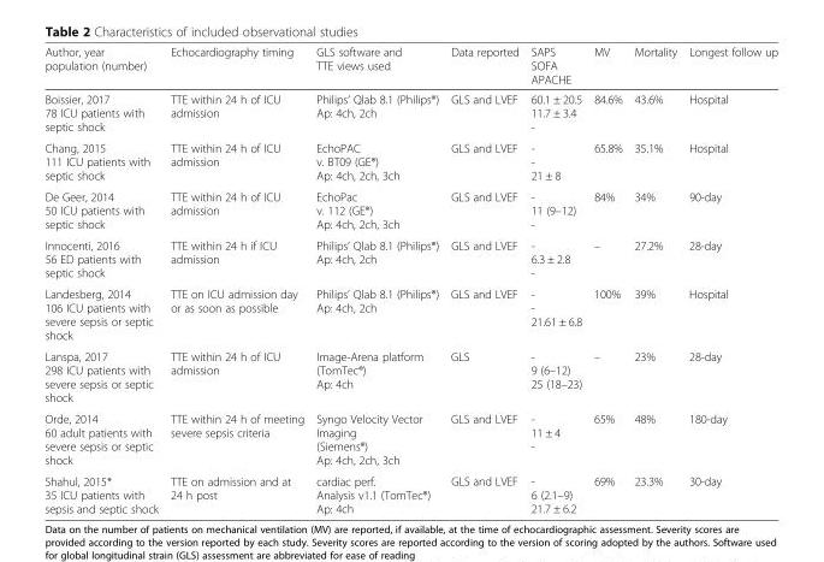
<table><thead><tr><td>Author, year population (number)</td><td>Echocardiography timing</td><td>GLS software and TTE views used</td><td>Data reported</td><td>SAPS SOFA APACHE</td><td>MV</td><td>Mortality</td><td>Longest follow up</td></tr></thead><tbody><tr><td>Boissier, 2017 78 ICU patients with septic shock</td><td>TTE within 24 h of ICU admission</td><td>Philips’ Qlab 8.1 (Philips®) Ap: 4ch, 2ch</td><td>GLS and LVEF</td><td>60.1 ± 20.5 11.7 ± 3.4 -</td><td>84.6%</td><td>43.6%</td><td>Hospital</td></tr><tr><td>Chang, 2015 111 ICU patients with septic shock</td><td>TTE within 24 h of ICU admission</td><td>EchoPAC v. BT09 (GE®) Ap: 4ch, 2ch, 3ch</td><td>GLS and LVEF</td><td>- - 21 ± 8</td><td>65.8%</td><td>35.1%</td><td>Hospital</td></tr><tr><td>De Geer, 2014 50 ICU patients with septic shock</td><td>TTE within 24 h of ICU admission</td><td>EchoPac v. 112 (GE®) Ap: 4ch, 2ch, 3ch</td><td>GLS and LVEF</td><td>- 11 (9–12) -</td><td>84%</td><td>34%</td><td>90-day</td></tr><tr><td>Innocenti, 2016 56 ED patients with septic shock</td><td>TTE within 24 h if ICU admission</td><td>Philips’ Qlab 8.1 (Philips®) Ap: 4ch, 2ch</td><td>GLS and LVEF</td><td>- 6.3 ± 2.8 -</td><td>–</td><td>27.2%</td><td>28-day</td></tr><tr><td>Landesberg, 2014 106 ICU patients with severe sepsis or septic shock</td><td>TTE on ICU admission day or as soon as possible</td><td>Philips’ Qlab 8.1 (Philips®) Ap: 4ch, 2ch</td><td>GLS and LVEF</td><td>- - 21.61 ± 6.8</td><td>100%</td><td>39%</td><td>Hospital</td></tr><tr><td>Lanspa, 2017 298 ICU patients with severe sepsis or septic shock</td><td>TTE within 24 h of ICU admission</td><td>Image-Arena platform (TomTec®) Ap: 4ch</td><td>GLS</td><td>- 9 (6–12) 25 (18–23)</td><td>–</td><td>23%</td><td>28-day</td></tr><tr><td>Orde, 2014 60 adult patients with severe sepsis or septic shock</td><td>TTE within 24 h of meeting severe sepsis criteria</td><td>Syngo Velocity Vector Imaging (Siemens®) Ap: 4ch, 2ch, 3ch</td><td>GLS and LVEF</td><td>- 11 ± 4 -</td><td>65%</td><td>48%</td><td>180-day</td></tr><tr><td>Shahul, 2015* 35 ICU patients with sepsis and septic shock</td><td>TTE on admission and at 24 h post</td><td>cardiac perf. Analysis v1.1 (TomTec®) Ap: 4ch</td><td>GLS and LVEF</td><td>- 6 (2.1–9) 21.7 ± 6.2</td><td>69%</td><td>23.3%</td><td>30-day</td></tr></tbody></table>